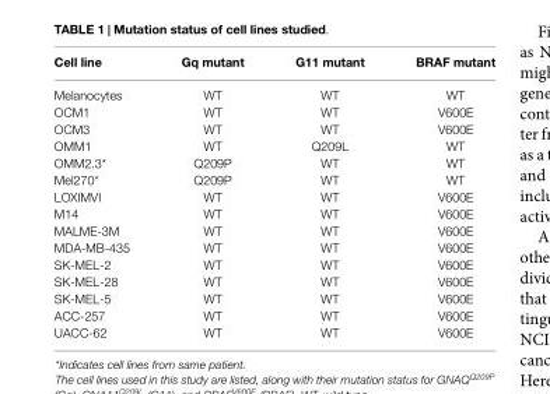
<table><thead><tr><td>Cell line</td><td>Gq mutant</td><td>G11 mutant</td><td>BRAF mutant</td></tr></thead><tbody><tr><td>Melanocytes</td><td>WT</td><td>WT</td><td>WT</td></tr><tr><td>OCM1</td><td>WT</td><td>WT</td><td>V600E</td></tr><tr><td>OCM3</td><td>WT</td><td>WT</td><td>V600E</td></tr><tr><td>OMM1</td><td>WT</td><td>Q209L</td><td>WT</td></tr><tr><td>OMM2.3*</td><td>Q209P</td><td>WT</td><td>WT</td></tr><tr><td>Mel270*</td><td>Q209P</td><td>WT</td><td>WT</td></tr><tr><td>LOXIMVI</td><td>WT</td><td>WT</td><td>V600E</td></tr><tr><td>M14</td><td>WT</td><td>WT</td><td>V600E</td></tr><tr><td>MALME-3M</td><td>WT</td><td>WT</td><td>V600E</td></tr><tr><td>MDA-MB-435</td><td>WT</td><td>WT</td><td>V600E</td></tr><tr><td>SK-MEL-2</td><td>WT</td><td>WT</td><td>V600E</td></tr><tr><td>SK-MEL-28</td><td>WT</td><td>WT</td><td>V600E</td></tr><tr><td>SK-MEL-5</td><td>WT</td><td>WT</td><td>V600E</td></tr><tr><td>ACC-257</td><td>WT</td><td>WT</td><td>V600E</td></tr><tr><td>UACC-62</td><td>WT</td><td>WT</td><td>V600E</td></tr></tbody></table>